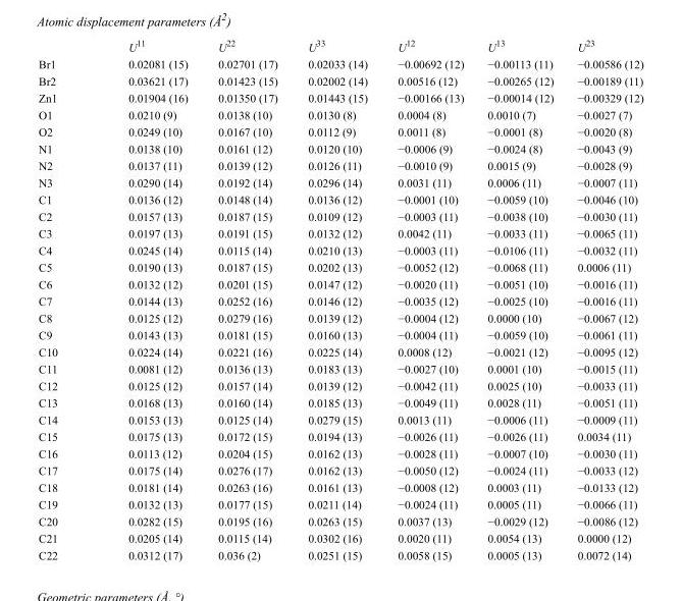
<table><thead><tr><td></td><td>U<sup>11</sup></td><td>U<sup>22</sup></td><td>U<sup>33</sup></td><td>U<sup>12</sup></td><td>U<sup>13</sup></td><td>U<sup>23</sup></td></tr></thead><tbody><tr><td>Br1</td><td>0.02081 (15)</td><td>0.02701 (17)</td><td>0.02033 (14)</td><td>−0.00692 (12)</td><td>−0.00113 (11)</td><td>−0.00586 (12)</td></tr><tr><td>Br2</td><td>0.03621 (17)</td><td>0.01423 (15)</td><td>0.02002 (14)</td><td>0.00516 (12)</td><td>−0.00265 (12)</td><td>−0.00189 (11)</td></tr><tr><td>Zn1</td><td>0.01904 (16)</td><td>0.01350 (17)</td><td>0.01443 (15)</td><td>−0.00166 (13)</td><td>−0.00014 (12)</td><td>−0.00329 (12)</td></tr><tr><td>O1</td><td>0.0210 (9)</td><td>0.0138 (10)</td><td>0.0130 (8)</td><td>0.0004 (8)</td><td>0.0010 (7)</td><td>−0.0027 (7)</td></tr><tr><td>O2</td><td>0.0249 (10)</td><td>0.0167 (10)</td><td>0.0112 (9)</td><td>0.0011 (8)</td><td>−0.0001 (8)</td><td>−0.0020 (8)</td></tr><tr><td>N1</td><td>0.0138 (10)</td><td>0.0161 (12)</td><td>0.0120 (10)</td><td>−0.0006 (9)</td><td>−0.0024 (8)</td><td>−0.0043 (9)</td></tr><tr><td>N2</td><td>0.0137 (11)</td><td>0.0139 (12)</td><td>0.0126 (11)</td><td>−0.0010 (9)</td><td>0.0015 (9)</td><td>−0.0028 (9)</td></tr><tr><td>N3</td><td>0.0290 (14)</td><td>0.0192 (14)</td><td>0.0296 (14)</td><td>0.0031 (11)</td><td>0.0006 (11)</td><td>−0.0007 (11)</td></tr><tr><td>C1</td><td>0.0136 (12)</td><td>0.0148 (14)</td><td>0.0136 (12)</td><td>−0.0001 (10)</td><td>−0.0059 (10)</td><td>−0.0046 (10)</td></tr><tr><td>C2</td><td>0.0157 (13)</td><td>0.0187 (15)</td><td>0.0109 (12)</td><td>−0.0003 (11)</td><td>−0.0038 (10)</td><td>−0.0030 (11)</td></tr><tr><td>C3</td><td>0.0197 (13)</td><td>0.0191 (15)</td><td>0.0132 (12)</td><td>0.0042 (11)</td><td>−0.0033 (11)</td><td>−0.0065 (11)</td></tr><tr><td>C4</td><td>0.0245 (14)</td><td>0.0115 (14)</td><td>0.0210 (13)</td><td>−0.0003 (11)</td><td>−0.0106 (11)</td><td>−0.0032 (11)</td></tr><tr><td>C5</td><td>0.0190 (13)</td><td>0.0187 (15)</td><td>0.0202 (13)</td><td>−0.0052 (12)</td><td>−0.0068 (11)</td><td>0.0006 (11)</td></tr><tr><td>C6</td><td>0.0132 (12)</td><td>0.0201 (15)</td><td>0.0147 (12)</td><td>−0.0020 (11)</td><td>−0.0051 (10)</td><td>−0.0016 (11)</td></tr><tr><td>C7</td><td>0.0144 (13)</td><td>0.0252 (16)</td><td>0.0146 (12)</td><td>−0.0035 (12)</td><td>−0.0025 (10)</td><td>−0.0016 (11)</td></tr><tr><td>C8</td><td>0.0125 (12)</td><td>0.0279 (16)</td><td>0.0139 (12)</td><td>−0.0004 (12)</td><td>0.0000 (10)</td><td>−0.0067 (12)</td></tr><tr><td>C9</td><td>0.0143 (13)</td><td>0.0181 (15)</td><td>0.0160 (13)</td><td>−0.0004 (11)</td><td>−0.0059 (10)</td><td>−0.0061 (11)</td></tr><tr><td>C10</td><td>0.0224 (14)</td><td>0.0221 (16)</td><td>0.0225 (14)</td><td>0.0008 (12)</td><td>−0.0021 (12)</td><td>−0.0095 (12)</td></tr><tr><td>C11</td><td>0.0081 (12)</td><td>0.0136 (13)</td><td>0.0183 (13)</td><td>−0.0027 (10)</td><td>0.0001 (10)</td><td>−0.0015 (11)</td></tr><tr><td>C12</td><td>0.0125 (12)</td><td>0.0157 (14)</td><td>0.0139 (12)</td><td>−0.0042 (11)</td><td>0.0025 (10)</td><td>−0.0033 (11)</td></tr><tr><td>C13</td><td>0.0168 (13)</td><td>0.0160 (14)</td><td>0.0185 (13)</td><td>−0.0049 (11)</td><td>0.0028 (11)</td><td>−0.0051 (11)</td></tr><tr><td>C14</td><td>0.0153 (13)</td><td>0.0125 (14)</td><td>0.0279 (15)</td><td>0.0013 (11)</td><td>−0.0006 (11)</td><td>−0.0009 (11)</td></tr><tr><td>C15</td><td>0.0175 (13)</td><td>0.0172 (15)</td><td>0.0194 (13)</td><td>−0.0026 (11)</td><td>−0.0026 (11)</td><td>0.0034 (11)</td></tr><tr><td>C16</td><td>0.0113 (12)</td><td>0.0204 (15)</td><td>0.0162 (13)</td><td>−0.0028 (11)</td><td>−0.0007 (10)</td><td>−0.0030 (11)</td></tr><tr><td>C17</td><td>0.0175 (14)</td><td>0.0276 (17)</td><td>0.0162 (13)</td><td>−0.0050 (12)</td><td>−0.0024 (11)</td><td>−0.0033 (12)</td></tr><tr><td>C18</td><td>0.0181 (14)</td><td>0.0263 (16)</td><td>0.0161 (13)</td><td>−0.0008 (12)</td><td>0.0003 (11)</td><td>−0.0133 (12)</td></tr><tr><td>C19</td><td>0.0132 (13)</td><td>0.0177 (15)</td><td>0.0211 (14)</td><td>−0.0024 (11)</td><td>0.0005 (11)</td><td>−0.0066 (11)</td></tr><tr><td>C20</td><td>0.0282 (15)</td><td>0.0195 (16)</td><td>0.0263 (15)</td><td>0.0037 (13)</td><td>−0.0029 (12)</td><td>−0.0086 (12)</td></tr><tr><td>C21</td><td>0.0205 (14)</td><td>0.0115 (14)</td><td>0.0302 (16)</td><td>0.0020 (11)</td><td>0.0054 (13)</td><td>0.0000 (12)</td></tr><tr><td>C22</td><td>0.0312 (17)</td><td>0.036 (2)</td><td>0.0251 (15)</td><td>0.0058 (15)</td><td>0.0005 (13)</td><td>0.0072 (14)</td></tr></tbody></table>